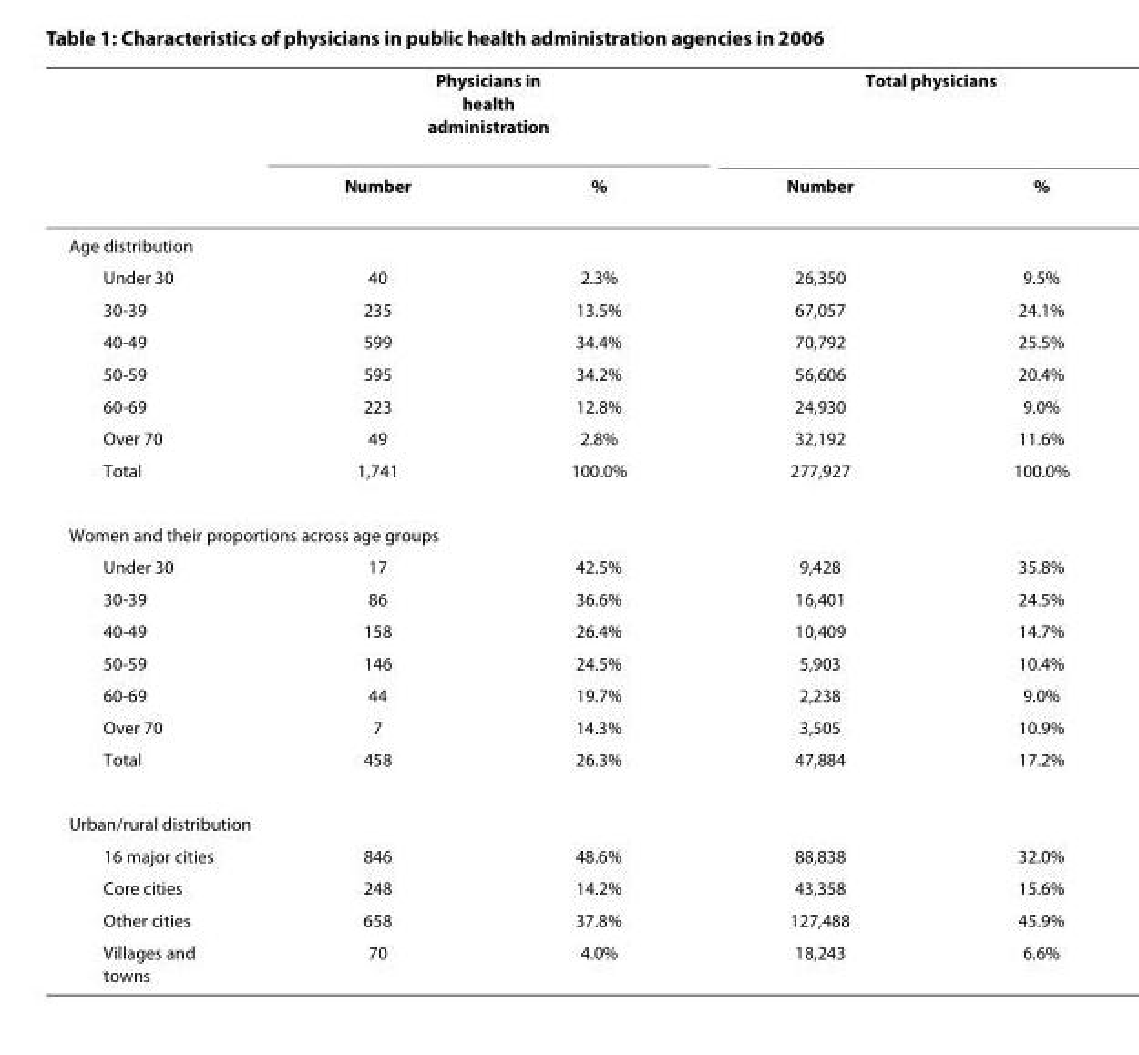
<table><thead><tr><td rowspan="2"></td><td colspan="2">Physicians in health administration</td><td colspan="2">Total physicians</td></tr><tr><td>Number</td><td>%</td><td>Number</td><td>%</td></tr></thead><tbody><tr><td colspan="5">Age distribution</td></tr><tr><td>Under 30</td><td>40</td><td>2.3%</td><td>26,350</td><td>9.5%</td></tr><tr><td>30-39</td><td>235</td><td>13.5%</td><td>67,057</td><td>24.1%</td></tr><tr><td>40-49</td><td>599</td><td>34.4%</td><td>70,792</td><td>25.5%</td></tr><tr><td>50-59</td><td>595</td><td>34.2%</td><td>56,606</td><td>20.4%</td></tr><tr><td>60-69</td><td>223</td><td>12.8%</td><td>24,930</td><td>9.0%</td></tr><tr><td>Over 70</td><td>49</td><td>2.8%</td><td>32,192</td><td>11.6%</td></tr><tr><td>Total</td><td>1,741</td><td>100.0%</td><td>277,927</td><td>100.0%</td></tr><tr><td colspan="5">Women and their proportions across age groups</td></tr><tr><td>Under 30</td><td>17</td><td>42.5%</td><td>9,428</td><td>35.8%</td></tr><tr><td>30-39</td><td>86</td><td>36.6%</td><td>16,401</td><td>24.5%</td></tr><tr><td>40-49</td><td>158</td><td>26.4%</td><td>10,409</td><td>14.7%</td></tr><tr><td>50-59</td><td>146</td><td>24.5%</td><td>5,903</td><td>10.4%</td></tr><tr><td>60-69</td><td>44</td><td>19.7%</td><td>2,238</td><td>9.0%</td></tr><tr><td>Over 70</td><td>7</td><td>14.3%</td><td>3,505</td><td>10.9%</td></tr><tr><td>Total</td><td>458</td><td>26.3%</td><td>47,884</td><td>17.2%</td></tr><tr><td colspan="5">Urban/rural distribution</td></tr><tr><td>16 major cities</td><td>846</td><td>48.6%</td><td>88,838</td><td>32.0%</td></tr><tr><td>Core cities</td><td>248</td><td>14.2%</td><td>43,358</td><td>15.6%</td></tr><tr><td>Other cities</td><td>658</td><td>37.8%</td><td>127,488</td><td>45.9%</td></tr><tr><td>Villages and towns</td><td>70</td><td>4.0%</td><td>18,243</td><td>6.6%</td></tr></tbody></table>